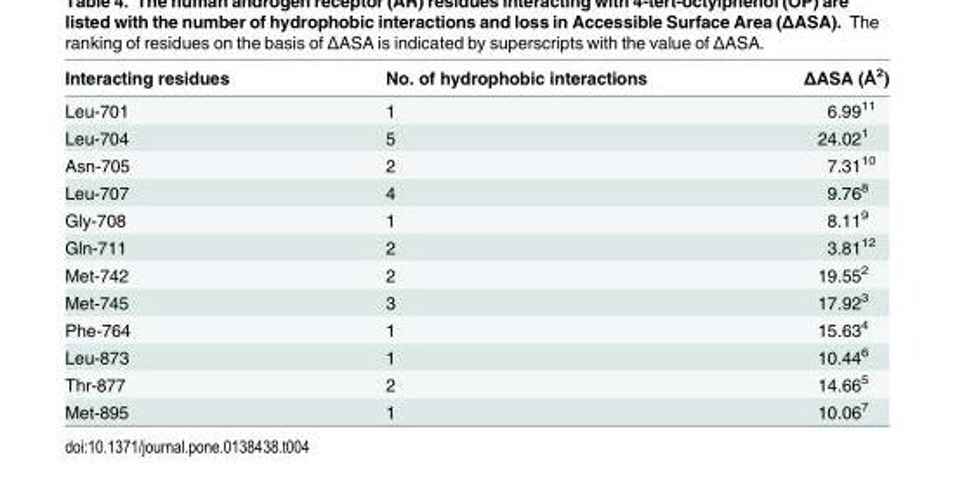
<table><thead><tr><td>Interacting residues</td><td>No. of hydrophobic interactions</td><td>ΔASA (Å<sup>2</sup>)</td></tr></thead><tbody><tr><td>Leu-701</td><td>1</td><td>6.99<sup>11</sup></td></tr><tr><td>Leu-704</td><td>5</td><td>24.02<sup>1</sup></td></tr><tr><td>Asn-705</td><td>2</td><td>7.31<sup>10</sup></td></tr><tr><td>Leu-707</td><td>4</td><td>9.76<sup>8</sup></td></tr><tr><td>Gly-708</td><td>1</td><td>8.11<sup>9</sup></td></tr><tr><td>Gln-711</td><td>2</td><td>3.81<sup>12</sup></td></tr><tr><td>Met-742</td><td>2</td><td>19.55<sup>2</sup></td></tr><tr><td>Met-745</td><td>3</td><td>17.92<sup>3</sup></td></tr><tr><td>Phe-764</td><td>1</td><td>15.63<sup>4</sup></td></tr><tr><td>Leu-873</td><td>1</td><td>10.44<sup>6</sup></td></tr><tr><td>Thr-877</td><td>2</td><td>14.66<sup>5</sup></td></tr><tr><td>Met-895</td><td>1</td><td>10.06<sup>7</sup></td></tr></tbody></table>